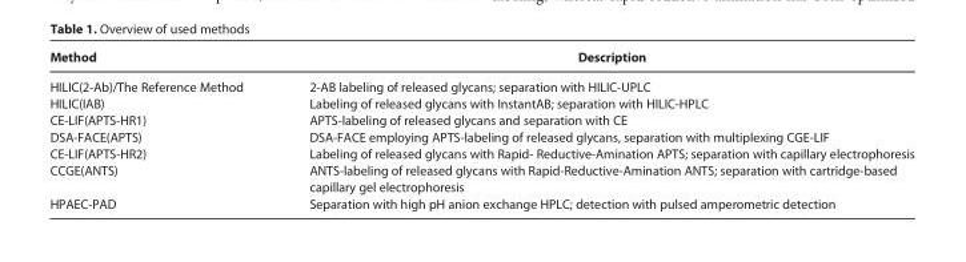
<table><thead><tr><td>Method</td><td>Description</td></tr></thead><tbody><tr><td>HILIC(2-Ab)/The Reference Method</td><td>2-AB labeling of released glycans; separation with HILIC-UPLC</td></tr><tr><td>HILIC(IAB)</td><td>Labeling of released glycans with InstantAB; separation with HILIC-HPLC</td></tr><tr><td>CE-LIF(APTS-HR1)</td><td>APTS-labeling of released glycans and separation with CE</td></tr><tr><td>DSA-FACE(APTS)</td><td>DSA-FACE employing APTS-labeling of released glycans, separation with multiplexing CGE-LIF</td></tr><tr><td>CE-LIF(APTS-HR2)</td><td>Labeling of released glycans with Rapid- Reductive-Amination APTS; separation with capillary electrophoresis</td></tr><tr><td>CCGE(ANTS)</td><td>ANTS-labeling of released glycans with Rapid-Reductive-Amination ANTS; separation with cartridge-based capillary gel electrophoresis</td></tr><tr><td>HPAEC-PAD</td><td>Separation with high pH anion exchange HPLC; detection with pulsed amperometric detection</td></tr></tbody></table>